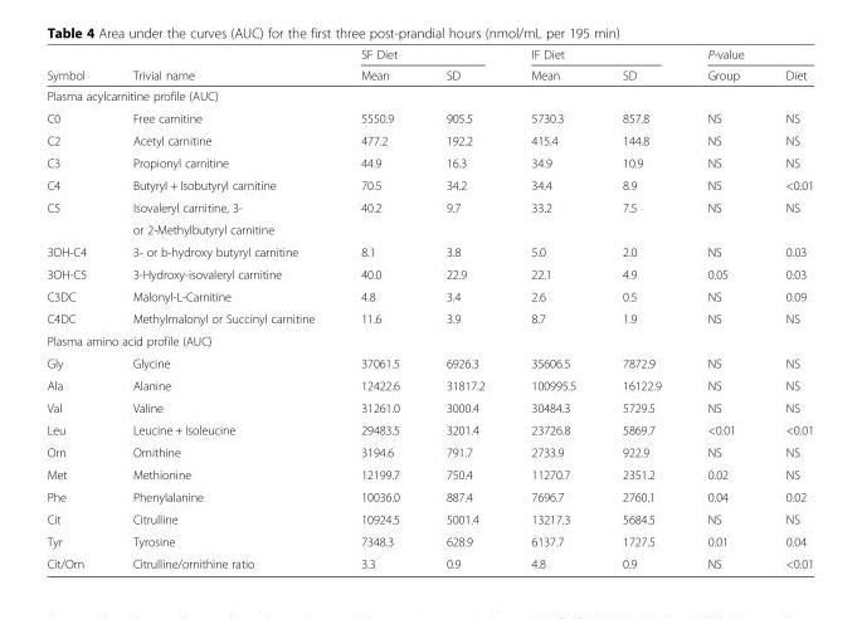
<table><thead><tr><td rowspan="2">Symbol</td><td rowspan="2">Trivial name</td><td colspan="2">SF Diet</td><td colspan="2">IF Diet</td><td colspan="2">P-value</td></tr><tr><td>Mean</td><td>SD</td><td>Mean</td><td>SD</td><td>Group</td><td>Diet</td></tr></thead><tbody><tr><td colspan="8">Plasma acylcarnitine profile (AUC)</td></tr><tr><td>C0</td><td>Free carnitine</td><td>5550.9</td><td>905.5</td><td>5730.3</td><td>857.8</td><td>NS</td><td>NS</td></tr><tr><td>C2</td><td>Acetyl carnitine</td><td>477.2</td><td>192.2</td><td>415.4</td><td>144.8</td><td>NS</td><td>NS</td></tr><tr><td>C3</td><td>Propionyl carnitine</td><td>44.9</td><td>16.3</td><td>34.9</td><td>10.9</td><td>NS</td><td>NS</td></tr><tr><td>C4</td><td>Butyryl + Isobutyryl carnitine</td><td>70.5</td><td>34.2</td><td>34.4</td><td>8.9</td><td>NS</td><td>&lt;0.01</td></tr><tr><td rowspan="2">C5</td><td>Isovaleryl carnitine, 3-</td><td>40.2</td><td>9.7</td><td>33.2</td><td>7.5</td><td>NS</td><td>NS</td></tr><tr><td colspan="7">or 2-Methylbutyryl carnitine</td></tr><tr><td>3OH-C4</td><td>3- or b-hydroxy butyryl carnitine</td><td>8.1</td><td>3.8</td><td>5.0</td><td>2.0</td><td>NS</td><td>0.03</td></tr><tr><td>3OH-C5</td><td>3-Hydroxy-isovaleryl carnitine</td><td>40.0</td><td>22.9</td><td>22.1</td><td>4.9</td><td>0.05</td><td>0.03</td></tr><tr><td>C3DC</td><td>Malonyl-L-Carnitine</td><td>4.8</td><td>3.4</td><td>2.6</td><td>0.5</td><td>NS</td><td>0.09</td></tr><tr><td>C4DC</td><td>Methylmalonyl or Succinyl carnitine</td><td>11.6</td><td>3.9</td><td>8.7</td><td>1.9</td><td>NS</td><td>NS</td></tr><tr><td colspan="8">Plasma amino acid profile (AUC)</td></tr><tr><td>Gly</td><td>Glycine</td><td>37061.5</td><td>6926.3</td><td>35606.5</td><td>7872.9</td><td>NS</td><td>NS</td></tr><tr><td>Ala</td><td>Alanine</td><td>12422.6</td><td>31817.2</td><td>100995.5</td><td>16122.9</td><td>NS</td><td>NS</td></tr><tr><td>Val</td><td>Valine</td><td>31261.0</td><td>3000.4</td><td>30484.3</td><td>5729.5</td><td>NS</td><td>NS</td></tr><tr><td>Leu</td><td>Leucine + Isoleucine</td><td>29483.5</td><td>3201.4</td><td>23726.8</td><td>5869.7</td><td>&lt;0.01</td><td>&lt;0.01</td></tr><tr><td>Orn</td><td>Ornithine</td><td>3194.6</td><td>791.7</td><td>2733.9</td><td>922.9</td><td>NS</td><td>NS</td></tr><tr><td>Met</td><td>Methionine</td><td>12199.7</td><td>750.4</td><td>11270.7</td><td>2351.2</td><td>0.02</td><td>NS</td></tr><tr><td>Phe</td><td>Phenylalanine</td><td>10036.0</td><td>887.4</td><td>7696.7</td><td>2760.1</td><td>0.04</td><td>0.02</td></tr><tr><td>Cit</td><td>Citrulline</td><td>10924.5</td><td>5001.4</td><td>13217.3</td><td>5684.5</td><td>NS</td><td>NS</td></tr><tr><td>Tyr</td><td>Tyrosine</td><td>7348.3</td><td>628.9</td><td>6137.7</td><td>1727.5</td><td>0.01</td><td>0.04</td></tr><tr><td>Cit/Orn</td><td>Citrulline/ornithine ratio</td><td>3.3</td><td>0.9</td><td>4.8</td><td>0.9</td><td>NS</td><td>&lt;0.01</td></tr></tbody></table>